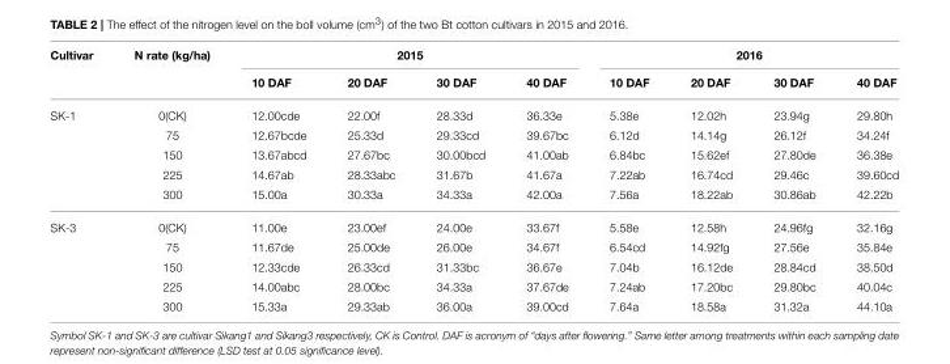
<table><thead><tr><td rowspan="2">Cultivar</td><td rowspan="2">N rate (kg/ha)</td><td colspan="4">2015</td><td colspan="4">2016</td></tr><tr><td>10 DAF</td><td>20 DAF</td><td>30 DAF</td><td>40 DAF</td><td>10 DAF</td><td>20 DAF</td><td>30 DAF</td><td>40 DAF</td></tr></thead><tbody><tr><td rowspan="5">SK-1</td><td>0(CK)</td><td>12.00cde</td><td>22.00f</td><td>28.33d</td><td>36.33e</td><td>5.38e</td><td>12.02h</td><td>23.94g</td><td>29.80h</td></tr><tr><td>75</td><td>12.67bcde</td><td>25.33d</td><td>29.33cd</td><td>39.67bc</td><td>6.12d</td><td>14.14g</td><td>26.12f</td><td>34.24f</td></tr><tr><td>150</td><td>13.67abcd</td><td>27.67bc</td><td>30.00bcd</td><td>41.00ab</td><td>6.84bc</td><td>15.62ef</td><td>27.80de</td><td>36.38e</td></tr><tr><td>225</td><td>14.67ab</td><td>28.33abc</td><td>31.67b</td><td>41.67a</td><td>7.22ab</td><td>16.74cd</td><td>29.46c</td><td>39.60cd</td></tr><tr><td>300</td><td>15.00a</td><td>30.33a</td><td>34.33a</td><td>42.00a</td><td>7.56a</td><td>18.22ab</td><td>30.86ab</td><td>42.22b</td></tr><tr><td rowspan="5">SK-3</td><td>0(CK)</td><td>11.00e</td><td>23.00ef</td><td>24.00e</td><td>33.67f</td><td>5.58e</td><td>12.58h</td><td>24.96fg</td><td>32.16g</td></tr><tr><td>75</td><td>11.67de</td><td>25.00de</td><td>26.00e</td><td>34.67f</td><td>6.54cd</td><td>14.92fg</td><td>27.56e</td><td>35.84e</td></tr><tr><td>150</td><td>12.33cde</td><td>26.33cd</td><td>31.33bc</td><td>36.67e</td><td>7.04b</td><td>16.12de</td><td>28.84cd</td><td>38.50d</td></tr><tr><td>225</td><td>14.00abc</td><td>28.00bc</td><td>34.33a</td><td>37.67de</td><td>7.24ab</td><td>17.20bc</td><td>29.80bc</td><td>40.04c</td></tr><tr><td>300</td><td>15.33a</td><td>29.33ab</td><td>36.00a</td><td>39.00cd</td><td>7.64a</td><td>18.58a</td><td>31.32a</td><td>44.10a</td></tr></tbody></table>